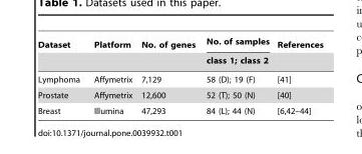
<table><thead><tr><td rowspan="2">Dataset</td><td rowspan="2">Platform</td><td rowspan="2">No. of genes</td><td rowspan="2">No. of samples class 1; class 2</td><td rowspan="2">References</td></tr><tr></tr></thead><tbody><tr><td>Lymphoma</td><td>Affymetrix</td><td>7,129</td><td>58 (D); 19 (F)</td><td>[41]</td></tr><tr><td>Prostate</td><td>Affymetrix</td><td>12,600</td><td>52 (T); 50 (N)</td><td>[40]</td></tr><tr><td>Breast</td><td>Illumina</td><td>47,293</td><td>84 (L); 44 (N)</td><td>[6,42–44]</td></tr></tbody></table>